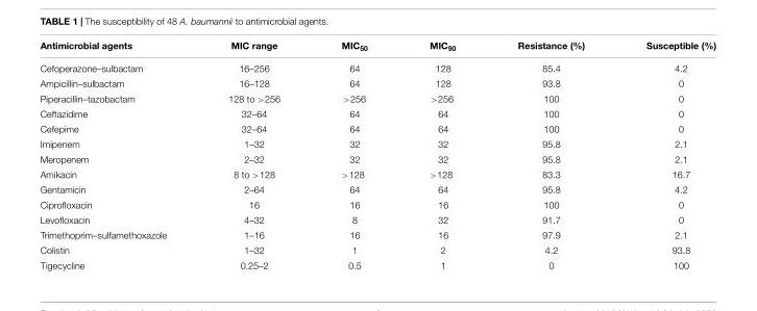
<table><thead><tr><td>Antimicrobial agents</td><td>MIC range</td><td>MIC<sub>50</sub></td><td>MIC<sub>90</sub></td><td>Resistance (%)</td><td>Susceptible (%)</td></tr></thead><tbody><tr><td>Cefoperazone–sulbactam</td><td>16–256</td><td>64</td><td>128</td><td>85.4</td><td>4.2</td></tr><tr><td>Ampicillin–sulbactam</td><td>16–128</td><td>64</td><td>128</td><td>93.8</td><td>0</td></tr><tr><td>Piperacillin–tazobactam</td><td>128 to &gt;256</td><td>&gt;256</td><td>&gt;256</td><td>100</td><td>0</td></tr><tr><td>Ceftazidime</td><td>32–64</td><td>64</td><td>64</td><td>100</td><td>0</td></tr><tr><td>Cefepime</td><td>32–64</td><td>64</td><td>64</td><td>100</td><td>0</td></tr><tr><td>Imipenem</td><td>1–32</td><td>32</td><td>32</td><td>95.8</td><td>2.1</td></tr><tr><td>Meropenem</td><td>2–32</td><td>32</td><td>32</td><td>95.8</td><td>2.1</td></tr><tr><td>Amikacin</td><td>8 to &gt;128</td><td>&gt;128</td><td>&gt;128</td><td>83.3</td><td>16.7</td></tr><tr><td>Gentamicin</td><td>2–64</td><td>64</td><td>64</td><td>95.8</td><td>4.2</td></tr><tr><td>Ciprofloxacin</td><td>16</td><td>16</td><td>16</td><td>100</td><td>0</td></tr><tr><td>Levofloxacin</td><td>4–32</td><td>8</td><td>32</td><td>91.7</td><td>0</td></tr><tr><td>Trimethoprim–sulfamethoxazole</td><td>1–16</td><td>16</td><td>16</td><td>97.9</td><td>2.1</td></tr><tr><td>Colistin</td><td>1–32</td><td>1</td><td>2</td><td>4.2</td><td>93.8</td></tr><tr><td>Tigecycline</td><td>0.25–2</td><td>0.5</td><td>1</td><td>0</td><td>100</td></tr></tbody></table>